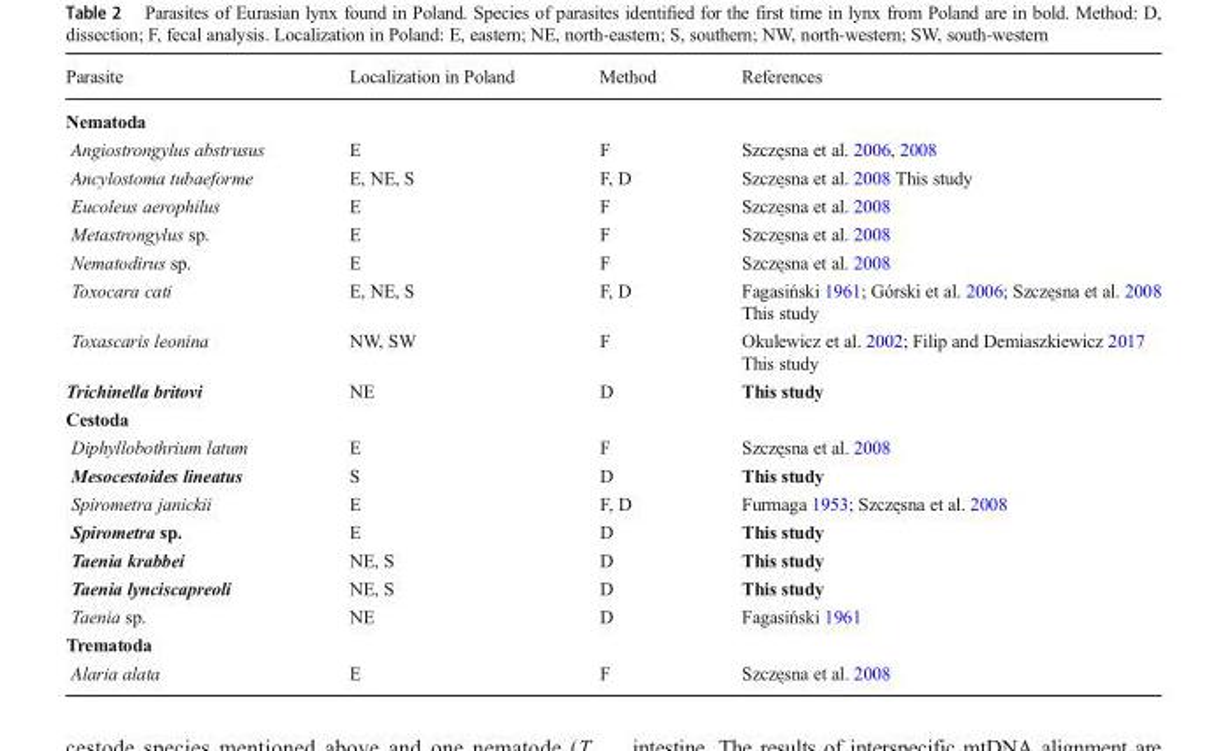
<table><thead><tr><td>Parasite</td><td>Localization in Poland</td><td>Method</td><td>References</td></tr></thead><tbody><tr><td colspan="4">Nematoda</td></tr><tr><td>Angiostrongylus abstrusus</td><td>E</td><td>F</td><td>Szczęsna et al. 2006, 2008</td></tr><tr><td>Ancylostoma tubaeforme</td><td>E, NE, S</td><td>F, D</td><td>Szczęsna et al. 2008 This study</td></tr><tr><td>Eucoleus aerophilus</td><td>E</td><td>F</td><td>Szczęsna et al. 2008</td></tr><tr><td>Metastrongylus sp.</td><td>E</td><td>F</td><td>Szczęsna et al. 2008</td></tr><tr><td>Nematodirus sp.</td><td>E</td><td>F</td><td>Szczęsna et al. 2008</td></tr><tr><td>Toxocara cati</td><td>E, NE, S</td><td>F, D</td><td>Fagasiński 1961; Górski et al. 2006; Szczęsna et al. 2008 This study</td></tr><tr><td>Toxascaris leonina</td><td>NW, SW</td><td>F</td><td>Okulewicz et al. 2002; Filip and Demiaszkiewicz 2017 This study</td></tr><tr><td>Trichinella britovi</td><td>NE</td><td>D</td><td>This study</td></tr><tr><td colspan="4">Cestoda</td></tr><tr><td>Diphyllobothrium latum</td><td>E</td><td>F</td><td>Szczęsna et al. 2008</td></tr><tr><td>Mesocestoides lineatus</td><td>S</td><td>D</td><td>This study</td></tr><tr><td>Spirometra janickii</td><td>E</td><td>F, D</td><td>Furmaga 1953; Szczęsna et al. 2008</td></tr><tr><td>Spirometra sp.</td><td>E</td><td>D</td><td>This study</td></tr><tr><td>Taenia krabbei</td><td>NE, S</td><td>D</td><td>This study</td></tr><tr><td>Taenia lynciscapreoli</td><td>NE, S</td><td>D</td><td>This study</td></tr><tr><td>Taenia sp.</td><td>NE</td><td>D</td><td>Fagasiński 1961</td></tr><tr><td colspan="4">Trematoda</td></tr><tr><td>Alaria alata</td><td>E</td><td>F</td><td>Szczęsna et al. 2008</td></tr></tbody></table>